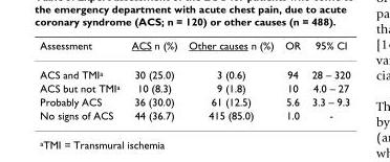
<table><thead><tr><td>Assessment</td><td>ACS n (%)</td><td>Other causes n (%)</td><td>OR</td><td>95% CI</td></tr></thead><tbody><tr><td>ACS and TMI<sup>a</sup></td><td>30 (25.0)</td><td>3 (0.6)</td><td>94</td><td>28 – 320</td></tr><tr><td>ACS but not TMI<sup>a</sup></td><td>10 (8.3)</td><td>9 (1.8)</td><td>10</td><td>4.0 – 27</td></tr><tr><td>Probably ACS</td><td>36 (30.0)</td><td>61 (12.5)</td><td>5.6</td><td>3.3 – 9.3</td></tr><tr><td>No signs of ACS</td><td>44 (36.7)</td><td>415 (85.0)</td><td>1.0</td><td>-</td></tr></tbody></table>